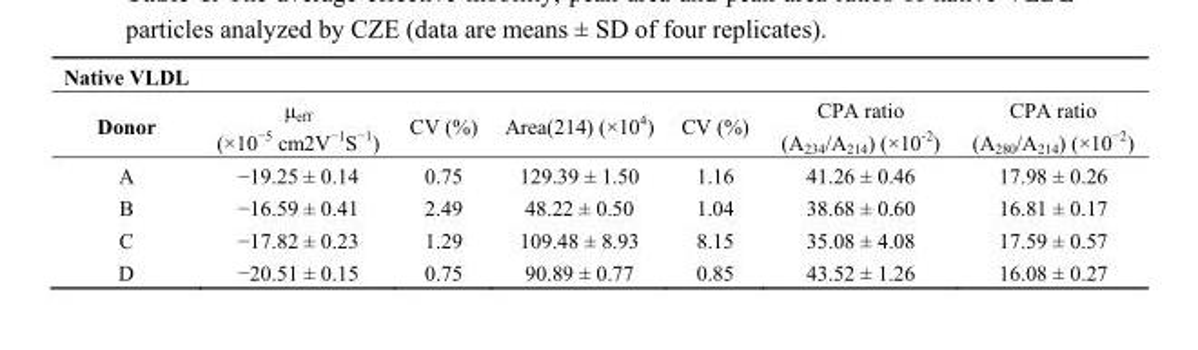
<table><thead><tr><td rowspan="2">Native VLDL Donor</td><td rowspan="2">μ<sub>eff</sub> (×10<sup>−5</sup> cm2V<sup>−1</sup>S<sup>−1</sup>)</td><td rowspan="2">CV (%)</td><td rowspan="2">Area(214) (×10<sup>4</sup>)</td><td rowspan="2">CV (%)</td><td rowspan="2">CPA ratio (A<sub>234</sub>/A<sub>214</sub>) (×10<sup>-2</sup>)</td><td rowspan="2">CPA ratio (A<sub>280</sub>/A<sub>214</sub>) (×10<sup>−2</sup>)</td></tr><tr></tr></thead><tbody><tr><td>A</td><td>−19.25 ± 0.14</td><td>0.75</td><td>129.39 ± 1.50</td><td>1.16</td><td>41.26 ± 0.46</td><td>17.98 ± 0.26</td></tr><tr><td>B</td><td>−16.59 ± 0.41</td><td>2.49</td><td>48.22 ± 0.50</td><td>1.04</td><td>38.68 ± 0.60</td><td>16.81 ± 0.17</td></tr><tr><td>C</td><td>−17.82 ± 0.23</td><td>1.29</td><td>109.48 ± 8.93</td><td>8.15</td><td>35.08 ± 4.08</td><td>17.59 ± 0.57</td></tr><tr><td>D</td><td>−20.51 ± 0.15</td><td>0.75</td><td>90.89 ± 0.77</td><td>0.85</td><td>43.52 ± 1.26</td><td>16.08 ± 0.27</td></tr></tbody></table>